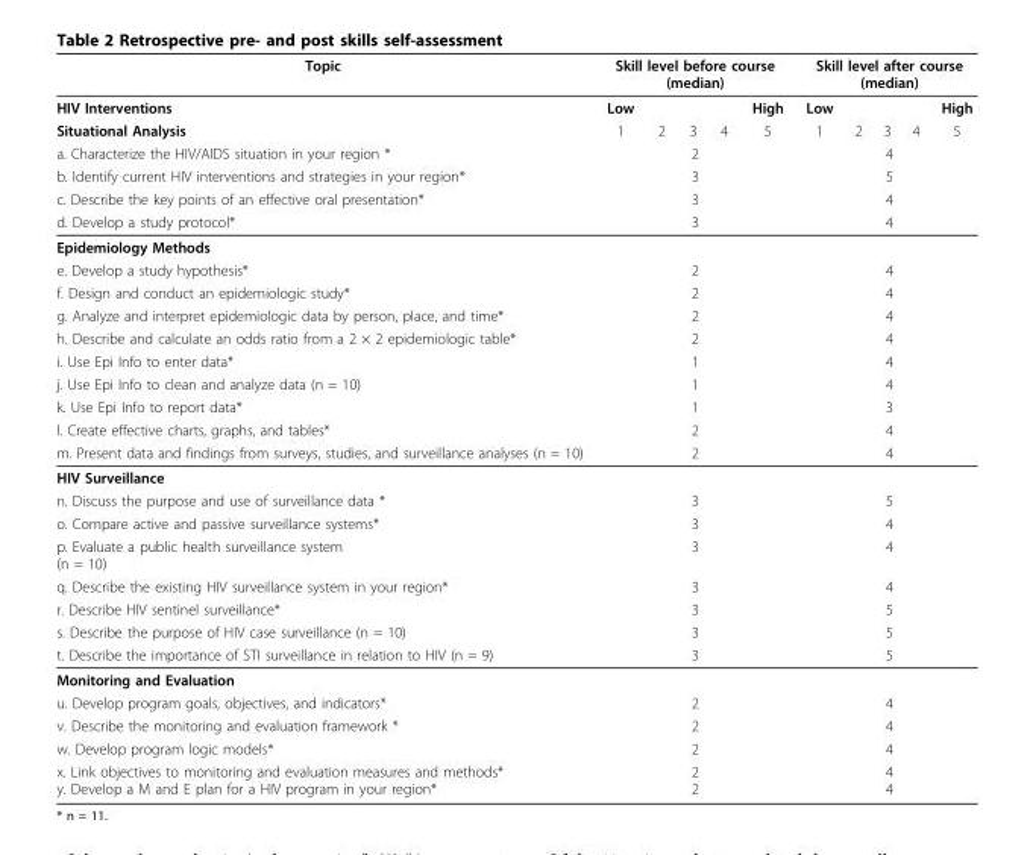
<table><thead><tr><td rowspan="2">Topic HIV Interventions</td><td colspan="5">Skill level before course (median)</td><td colspan="5">Skill level after course (median)</td></tr><tr><td>Low</td><td></td><td></td><td></td><td>High</td><td>Low</td><td></td><td></td><td></td><td>High</td></tr></thead><tbody><tr><td>Situational Analysis</td><td>1</td><td>2</td><td>3</td><td>4</td><td>5</td><td>1</td><td>2</td><td>3</td><td>4</td><td>5</td></tr><tr><td>a. Characterize the HIV/AIDS situation in your region *</td><td colspan="5">2</td><td colspan="5">4</td></tr><tr><td>b. Identify current HIV interventions and strategies in your region*</td><td colspan="5">3</td><td colspan="5">5</td></tr><tr><td>c. Describe the key points of an effective oral presentation*</td><td colspan="5">3</td><td colspan="5">4</td></tr><tr><td>d. Develop a study protocol*</td><td colspan="5">3</td><td colspan="5">4</td></tr><tr><td colspan="11">Epidemiology Methods</td></tr><tr><td>e. Develop a study hypothesis*</td><td colspan="5">2</td><td colspan="5">4</td></tr><tr><td>f. Design and conduct an epidemiologic study*</td><td colspan="5">2</td><td colspan="5">4</td></tr><tr><td>g. Analyze and interpret epidemiologic data by person, place, and time*</td><td colspan="5">2</td><td colspan="5">4</td></tr><tr><td>h. Describe and calculate an odds ratio from a 2 × 2 epidemiologic table*</td><td colspan="5">2</td><td colspan="5">4</td></tr><tr><td>i. Use Epi Info to enter data*</td><td colspan="5">1</td><td colspan="5">4</td></tr><tr><td>j. Use Epi Info to clean and analyze data (n = 10)</td><td colspan="5">1</td><td colspan="5">4</td></tr><tr><td>k. Use Epi Info to report data*</td><td colspan="5">1</td><td colspan="5">3</td></tr><tr><td>l. Create effective charts, graphs, and tables*</td><td colspan="5">2</td><td colspan="5">4</td></tr><tr><td>m. Present data and findings from surveys, studies, and surveillance analyses (n = 10)</td><td colspan="5">2</td><td colspan="5">4</td></tr><tr><td colspan="11">HIV Surveillance</td></tr><tr><td>n. Discuss the purpose and use of surveillance data *</td><td colspan="5">3</td><td colspan="5">5</td></tr><tr><td>o. Compare active and passive surveillance systems*</td><td colspan="5">3</td><td colspan="5">4</td></tr><tr><td>p. Evaluate a public health surveillance system (n = 10)</td><td colspan="5">3</td><td colspan="5">4</td></tr><tr><td>q. Describe the existing HIV surveillance system in your region*</td><td colspan="5">3</td><td colspan="5">4</td></tr><tr><td>r. Describe HIV sentinel surveillance*</td><td colspan="5">3</td><td colspan="5">5</td></tr><tr><td>s. Describe the purpose of HIV case surveillance (n = 10)</td><td colspan="5">3</td><td colspan="5">5</td></tr><tr><td>t. Describe the importance of STI surveillance in relation to HIV (n = 9)</td><td colspan="5">3</td><td colspan="5">5</td></tr><tr><td colspan="11">Monitoring and Evaluation</td></tr><tr><td>u. Develop program goals, objectives, and indicators*</td><td colspan="5">2</td><td colspan="5">4</td></tr><tr><td>v. Describe the monitoring and evaluation framework *</td><td colspan="5">2</td><td colspan="5">4</td></tr><tr><td>w. Develop program logic models*</td><td colspan="5">2</td><td colspan="5">4</td></tr><tr><td>x. Link objectives to monitoring and evaluation measures and methods* y. Develop a M and E plan for a HIV program in your region*</td><td colspan="5">2 2</td><td colspan="5">4 4</td></tr></tbody></table>